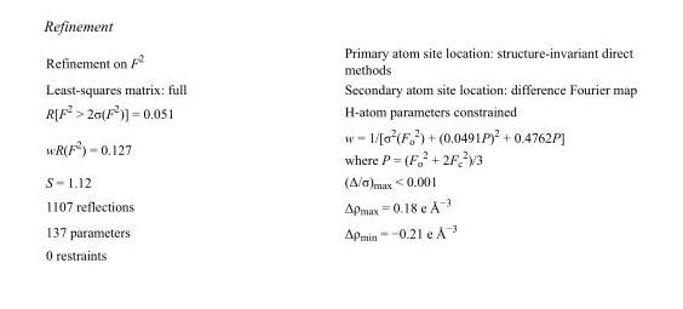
<table><tbody><tr><td>Refinement on F<sup>2</sup></td><td>Primary atom site location: structure-invariant direct methods</td></tr><tr><td>Least-squares matrix: full</td><td>Secondary atom site location: difference Fourier map</td></tr><tr><td>R[F<sup>2</sup> &gt; 2σ(F<sup>2</sup>)] = 0.051</td><td>H-atom parameters constrained</td></tr><tr><td>wR(F<sup>2</sup>) = 0.127</td><td>w = 1/[σ<sup>2</sup>(F<sub>o</sub> <sup>2</sup>) + (0.0491P)<sup>2</sup> + 0.4762P] where P = (F<sub>o</sub> <sup>2</sup> + 2F<sub>c</sub> <sup>2</sup>)/3</td></tr><tr><td>S = 1.12</td><td>(Δ/σ)<sub>max</sub> &lt; 0.001</td></tr><tr><td>1107 reflections</td><td>Δρ<sub>max</sub> = 0.18 e Å<sup>−3</sup></td></tr><tr><td>137 parameters</td><td>Δρ<sub>min</sub> = −0.21 e Å<sup>−3</sup></td></tr><tr><td>0 restraints</td><td></td></tr></tbody></table>